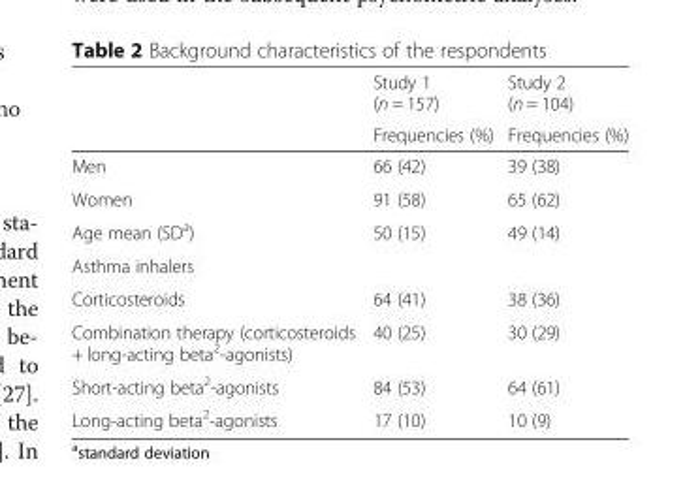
<table><thead><tr><td rowspan="2"></td><td rowspan="2">Study 1 (n = 157) Frequencies (%)</td><td rowspan="2">Study 2 (n = 104) Frequencies (%)</td></tr><tr></tr></thead><tbody><tr><td>Men</td><td>66 (42)</td><td>39 (38)</td></tr><tr><td>Women</td><td>91 (58)</td><td>65 (62)</td></tr><tr><td>Age mean (SD<sup>a</sup>)</td><td>50 (15)</td><td>49 (14)</td></tr><tr><td colspan="3">Asthma inhalers</td></tr><tr><td>Corticosteroids</td><td>64 (41)</td><td>38 (36)</td></tr><tr><td>Combination therapy (corticosteroids + long-acting beta<sup>2</sup>-agonists)</td><td>40 (25)</td><td>30 (29)</td></tr><tr><td>Short-acting beta<sup>2</sup>-agonists</td><td>84 (53)</td><td>64 (61)</td></tr><tr><td>Long-acting beta<sup>2</sup>-agonists</td><td>17 (10)</td><td>10 (9)</td></tr></tbody></table>